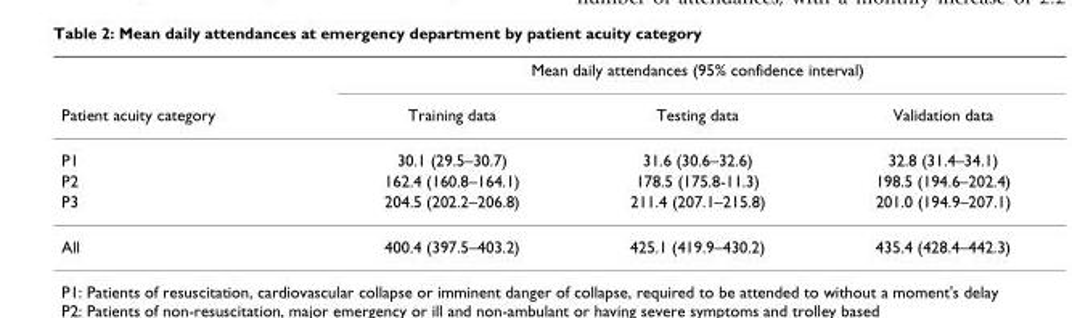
<table><thead><tr><td rowspan="2">Patient acuity category</td><td colspan="3">Mean daily attendances (95% confidence interval)</td></tr><tr><td>Training data</td><td>Testing data</td><td>Validation data</td></tr></thead><tbody><tr><td>P1</td><td>30.1 (29.5–30.7)</td><td>31.6 (30.6–32.6)</td><td>32.8 (31.4–34.1)</td></tr><tr><td>P2</td><td>162.4 (160.8–164.1)</td><td>178.5 (175.8-11.3)</td><td>198.5 (194.6–202.4)</td></tr><tr><td>P3</td><td>204.5 (202.2–206.8)</td><td>211.4 (207.1–215.8)</td><td>201.0 (194.9–207.1)</td></tr><tr><td>All</td><td>400.4 (397.5–403.2)</td><td>425.1 (419.9–430.2)</td><td>435.4 (428.4–442.3)</td></tr></tbody></table>